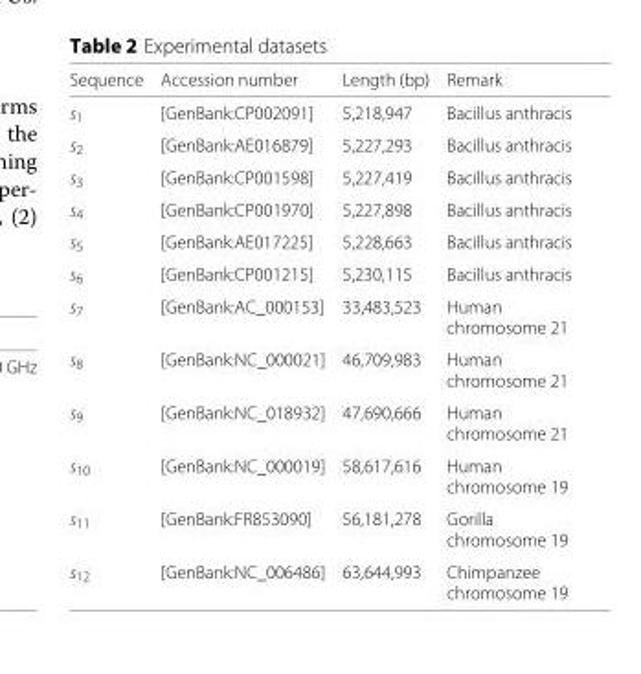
<table><thead><tr><td>Sequence</td><td>Accession number</td><td>Length (bp)</td><td>Remark</td></tr></thead><tbody><tr><td>s<sub>1</sub></td><td>[GenBank:CP002091]</td><td>5,218,947</td><td>Bacillus anthracis</td></tr><tr><td>s<sub>2</sub></td><td>[GenBank:AE016879]</td><td>5,227,293</td><td>Bacillus anthracis</td></tr><tr><td>s<sub>3</sub></td><td>[GenBank:CP001598]</td><td>5,227,419</td><td>Bacillus anthracis</td></tr><tr><td>s<sub>4</sub></td><td>[GenBank:CP001970]</td><td>5,227,898</td><td>Bacillus anthracis</td></tr><tr><td>s<sub>5</sub></td><td>[GenBank:AE017225]</td><td>5,228,663</td><td>Bacillus anthracis</td></tr><tr><td>s<sub>6</sub></td><td>[GenBank:CP001215]</td><td>5,230,115</td><td>Bacillus anthracis</td></tr><tr><td>s<sub>7</sub></td><td>[GenBank:AC_000153]</td><td>33,483,523</td><td>Human chromosome 21</td></tr><tr><td>s<sub>8</sub></td><td>[GenBank:NC_000021]</td><td>46,709,983</td><td>Human chromosome 21</td></tr><tr><td>s<sub>9</sub></td><td>[GenBank:NC_018932]</td><td>47,690,666</td><td>Human chromosome 21</td></tr><tr><td>s<sub>10</sub></td><td>[GenBank:NC_000019]</td><td>58,617,616</td><td>Human chromosome 19</td></tr><tr><td>s<sub>11</sub></td><td>[GenBank:FR853090]</td><td>56,181,278</td><td>Gorilla chromosome 19</td></tr><tr><td>s<sub>12</sub></td><td>[GenBank:NC_006486]</td><td>63,644,993</td><td>Chimpanzee chromosome 19</td></tr></tbody></table>